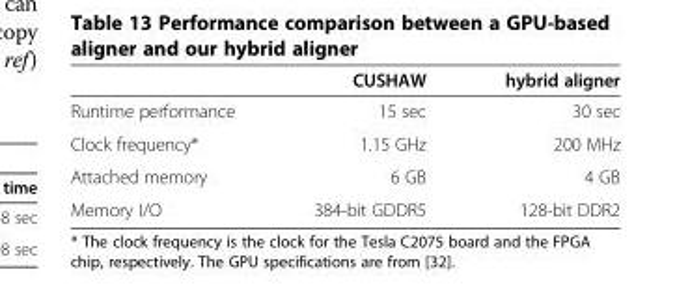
<table><thead><tr><td></td><td>CUSHAW</td><td>hybrid aligner</td></tr></thead><tbody><tr><td>Runtime performance</td><td>15 sec</td><td>30 sec</td></tr><tr><td>Clock frequency*</td><td>1.15 GHz</td><td>200 MHz</td></tr><tr><td>Attached memory</td><td>6 GB</td><td>4 GB</td></tr><tr><td>Memory I/O</td><td>384-bit GDDR5</td><td>128-bit DDR2</td></tr></tbody></table>